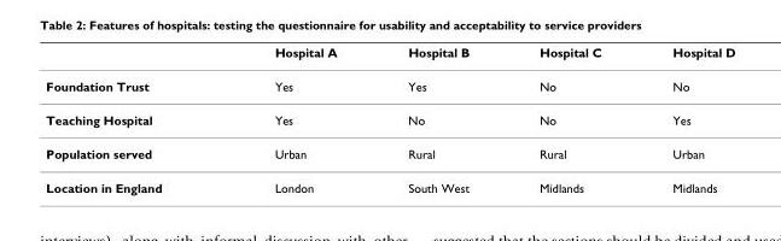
<table><thead><tr><td></td><td>Hospital A</td><td>Hospital B</td><td>Hospital C</td><td>Hospital D</td></tr></thead><tbody><tr><td>Foundation Trust</td><td>Yes</td><td>Yes</td><td>No</td><td>No</td></tr><tr><td>Teaching Hospital</td><td>Yes</td><td>No</td><td>No</td><td>Yes</td></tr><tr><td>Population served</td><td>Urban</td><td>Rural</td><td>Rural</td><td>Urban</td></tr><tr><td>Location in England</td><td>London</td><td>South West</td><td>Midlands</td><td>Midlands</td></tr></tbody></table>